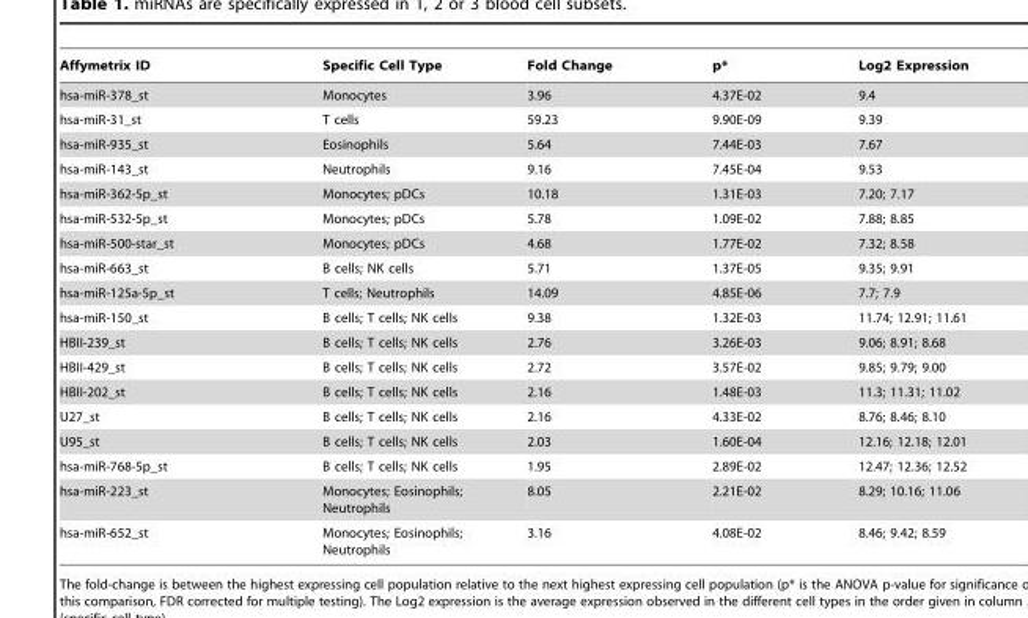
<table><thead><tr><td>Affymetrix ID</td><td>Specific Cell Type</td><td>Fold Change</td><td>p*</td><td>Log2 Expression</td></tr></thead><tbody><tr><td>hsa-miR-378_st</td><td>Monocytes</td><td>3.96</td><td>4.37E-02</td><td>9.4</td></tr><tr><td>hsa-miR-31_st</td><td>T cells</td><td>59.23</td><td>9.90E-09</td><td>9.39</td></tr><tr><td>hsa-miR-935_st</td><td>Eosinophils</td><td>5.64</td><td>7.44E-03</td><td>7.67</td></tr><tr><td>hsa-miR-143_st</td><td>Neutrophils</td><td>9.16</td><td>7.45E-04</td><td>9.53</td></tr><tr><td>hsa-miR-362-5p_st</td><td>Monocytes; pDCs</td><td>10.18</td><td>1.31E-03</td><td>7.20; 7.17</td></tr><tr><td>hsa-miR-532-5p_st</td><td>Monocytes; pDCs</td><td>5.78</td><td>1.09E-02</td><td>7.88; 8.85</td></tr><tr><td>hsa-miR-500-star_st</td><td>Monocytes; pDCs</td><td>4.68</td><td>1.77E-02</td><td>7.32; 8.58</td></tr><tr><td>hsa-miR-663_st</td><td>B cells; NK cells</td><td>5.71</td><td>1.37E-05</td><td>9.35; 9.91</td></tr><tr><td>hsa-miR-125a-5p_st</td><td>T cells; Neutrophils</td><td>14.09</td><td>4.85E-06</td><td>7.7; 7.9</td></tr><tr><td>hsa-miR-150_st</td><td>B cells; T cells; NK cells</td><td>9.38</td><td>1.32E-03</td><td>11.74; 12.91; 11.61</td></tr><tr><td>HBII-239_st</td><td>B cells; T cells; NK cells</td><td>2.76</td><td>3.26E-03</td><td>9.06; 8.91; 8.68</td></tr><tr><td>HBII-429_st</td><td>B cells; T cells; NK cells</td><td>2.72</td><td>3.57E-02</td><td>9.85; 9.79; 9.00</td></tr><tr><td>HBII-202_st</td><td>B cells; T cells; NK cells</td><td>2.16</td><td>1.48E-03</td><td>11.3; 11.31; 11.02</td></tr><tr><td>U27_st</td><td>B cells; T cells; NK cells</td><td>2.16</td><td>4.33E-02</td><td>8.76; 8.46; 8.10</td></tr><tr><td>U95_st</td><td>B cells; T cells; NK cells</td><td>2.03</td><td>1.60E-04</td><td>12.16; 12.18; 12.01</td></tr><tr><td>hsa-miR-768-5p_st</td><td>B cells; T cells; NK cells</td><td>1.95</td><td>2.89E-02</td><td>12.47; 12.36; 12.52</td></tr><tr><td>hsa-miR-223_st</td><td>Monocytes; Eosinophils; Neutrophils</td><td>8.05</td><td>2.21E-02</td><td>8.29; 10.16; 11.06</td></tr><tr><td>hsa-miR-652_st</td><td>Monocytes; Eosinophils; Neutrophils</td><td>3.16</td><td>4.08E-02</td><td>8.46; 9.42; 8.59</td></tr></tbody></table>